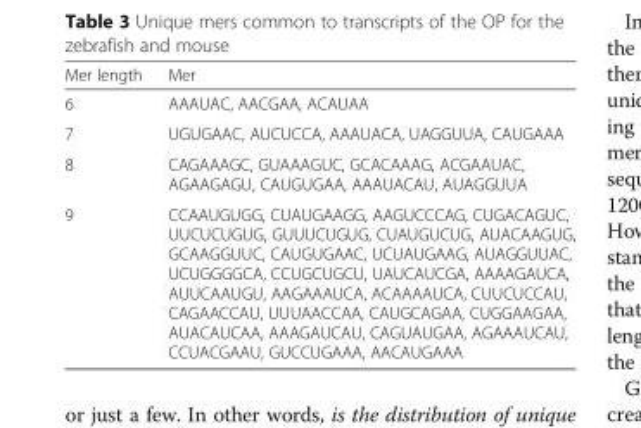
<table><thead><tr><td>Mer length</td><td>Mer</td></tr></thead><tbody><tr><td>6</td><td>AAAUAC, AACGAA, ACAUAA</td></tr><tr><td>7</td><td>UGUGAAC, AUCUCCA, AAAUACA, UAGGUUA, CAUGAAA</td></tr><tr><td>8</td><td>CAGAAAGC, GUAAAGUC, GCACAAAG, ACGAAUAC, AGAAGAGU, CAUGUGAA, AAAUACAU, AUAGGUUA</td></tr><tr><td>9</td><td>CCAAUGUGG, CUAUGAAGG, AAGUCCCAG, CUGACAGUC, UUCUCUGUG, GUUUCUGUG, CUAUGUCUG, AUACAAGUG, GCAAGGUUC, CAUGUGAAC, UCUAUGAAG, AUAGGUUAC, UCUGGGGCA, CCUGCUGCU, UAUCAUCGA, AAAAGAUCA, AUUCAAUGU, AAGAAAUCA, ACAAAAUCA, CUUCUCCAU, CAGAACCAU, UUUAACCAA, CAUGCAGAA, CUGGAAGAA, AUACAUCAA, AAAGAUCAU, CAGUAUGAA, AGAAAUCAU, CCUACGAAU, GUCCUGAAA, AACAUGAAA</td></tr></tbody></table>